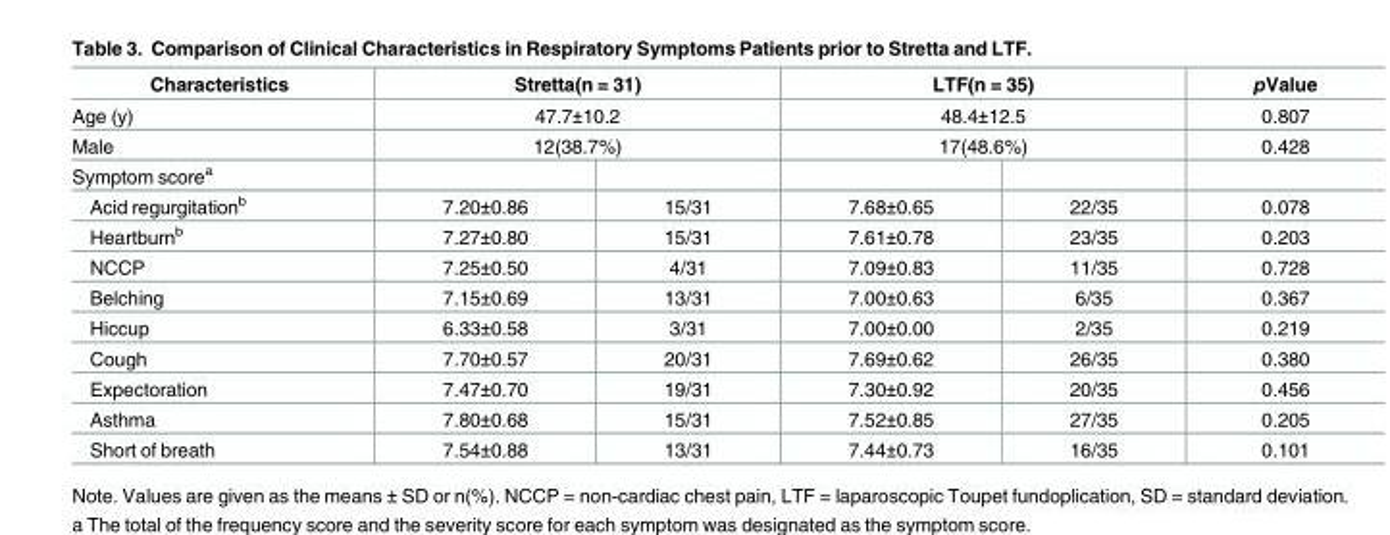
<table><thead><tr><td rowspan="4">Characteristics Age (y) Male Symptom score<sup>a</sup></td><td rowspan="3" colspan="2">Stretta(n = 31) 47.7±10.2 12(38.7%)</td><td rowspan="3" colspan="2">LTF(n = 35) 48.4±12.5 17(48.6%)</td><td rowspan="4">pValue 0.807 0.428</td></tr><tr></tr><tr></tr><tr><td></td><td></td><td></td><td></td></tr></thead><tbody><tr><td>Acid regurgitation<sup>b</sup></td><td>7.20±0.86</td><td>15/31</td><td>7.68±0.65</td><td>22/35</td><td>0.078</td></tr><tr><td>Heartburn<sup>b</sup></td><td>7.27±0.80</td><td>15/31</td><td>7.61±0.78</td><td>23/35</td><td>0.203</td></tr><tr><td>NCCP</td><td>7.25±0.50</td><td>4/31</td><td>7.09±0.83</td><td>11/35</td><td>0.728</td></tr><tr><td>Belching</td><td>7.15±0.69</td><td>13/31</td><td>7.00±0.63</td><td>6/35</td><td>0.367</td></tr><tr><td>Hiccup</td><td>6.33±0.58</td><td>3/31</td><td>7.00±0.00</td><td>2/35</td><td>0.219</td></tr><tr><td>Cough</td><td>7.70±0.57</td><td>20/31</td><td>7.69±0.62</td><td>26/35</td><td>0.380</td></tr><tr><td>Expectoration</td><td>7.47±0.70</td><td>19/31</td><td>7.30±0.92</td><td>20/35</td><td>0.456</td></tr><tr><td>Asthma</td><td>7.80±0.68</td><td>15/31</td><td>7.52±0.85</td><td>27/35</td><td>0.205</td></tr><tr><td>Short of breath</td><td>7.54±0.88</td><td>13/31</td><td>7.44±0.73</td><td>16/35</td><td>0.101</td></tr></tbody></table>